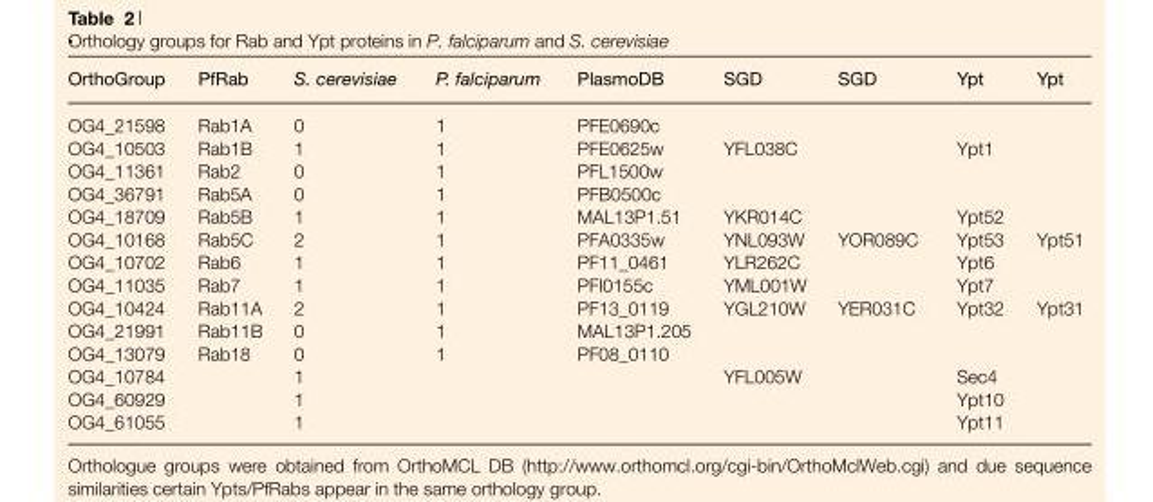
<table><thead><tr><td>OrthoGroup</td><td>PfRab</td><td>S. cerevisiae</td><td>P. falciparum</td><td>PlasmoDB</td><td>SGD</td><td>SGD</td><td>Ypt</td><td>Ypt</td></tr></thead><tbody><tr><td>OG4_21598</td><td>Rab1A</td><td>0</td><td>1</td><td>PFE0690c</td><td></td><td></td><td></td><td></td></tr><tr><td>OG4_10503</td><td>Rab1B</td><td>1</td><td>1</td><td>PFE0625w</td><td>YFL038C</td><td></td><td>Ypt1</td><td></td></tr><tr><td>OG4_11361</td><td>Rab2</td><td>0</td><td>1</td><td>PFL1500w</td><td></td><td></td><td></td><td></td></tr><tr><td>OG4_36791</td><td>Rab5A</td><td>0</td><td>1</td><td>PFB0500c</td><td></td><td></td><td></td><td></td></tr><tr><td>OG4_18709</td><td>Rab5B</td><td>1</td><td>1</td><td>MAL13P1.51</td><td>YKR014C</td><td></td><td>Ypt52</td><td></td></tr><tr><td>OG4_10168</td><td>Rab5C</td><td>2</td><td>1</td><td>PFA0335w</td><td>YNL093W</td><td>YOR089C</td><td>Ypt53</td><td>Ypt51</td></tr><tr><td>OG4_10702</td><td>Rab6</td><td>1</td><td>1</td><td>PF11_0461</td><td>YLR262C</td><td></td><td>Ypt6</td><td></td></tr><tr><td>OG4_11035</td><td>Rab7</td><td>1</td><td>1</td><td>PFI0155c</td><td>YML001W</td><td></td><td>Ypt7</td><td></td></tr><tr><td>OG4_10424</td><td>Rab11A</td><td>2</td><td>1</td><td>PF13_0119</td><td>YGL210W</td><td>YER031C</td><td>Ypt32</td><td>Ypt31</td></tr><tr><td>OG4_21991</td><td>Rab11B</td><td>0</td><td>1</td><td>MAL13P1.205</td><td></td><td></td><td></td><td></td></tr><tr><td>OG4_13079</td><td>Rab18</td><td>0</td><td>1</td><td>PF08_0110</td><td></td><td></td><td></td><td></td></tr><tr><td>OG4_10784</td><td></td><td>1</td><td></td><td></td><td>YFL005W</td><td></td><td>Sec4</td><td></td></tr><tr><td>OG4_60929</td><td></td><td>1</td><td></td><td></td><td></td><td></td><td>Ypt10</td><td></td></tr><tr><td>OG4_61055</td><td></td><td>1</td><td></td><td></td><td></td><td></td><td>Ypt11</td><td></td></tr></tbody></table>